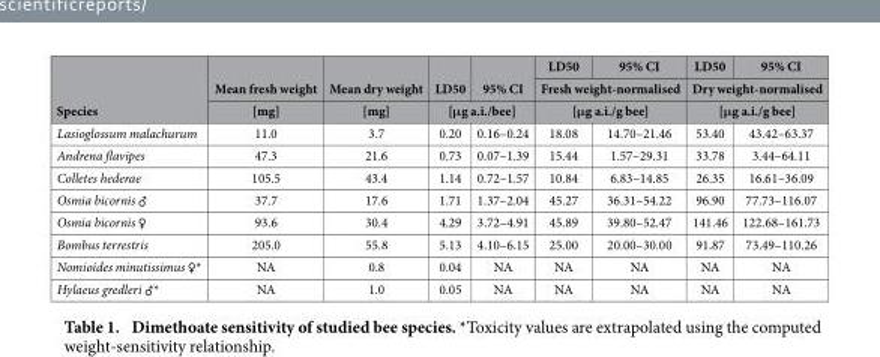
<table><thead><tr><td rowspan="3">Species</td><td rowspan="3">Mean fresh weight [mg]</td><td rowspan="3">Mean dry weight [mg]</td><td rowspan="2">LD50</td><td rowspan="2">95% CI</td><td>LD50</td><td>95% CI</td><td>LD50</td><td>95% CI</td></tr><tr><td rowspan="2" colspan="2">Fresh weight-normalised [μg a.i./g bee]</td><td rowspan="2" colspan="2">Dry weight-normalised [μg a.i./g bee]</td></tr><tr><td colspan="2">[μg a.i./bee]</td></tr></thead><tbody><tr><td>Lasioglossum malachurum</td><td>11.0</td><td>3.7</td><td>0.20</td><td>0.16–0.24</td><td>18.08</td><td>14.70–21.46</td><td>53.40</td><td>43.42–63.37</td></tr><tr><td>Andrena flavipes</td><td>47.3</td><td>21.6</td><td>0.73</td><td>0.07–1.39</td><td>15.44</td><td>1.57–29.31</td><td>33.78</td><td>3.44–64.11</td></tr><tr><td>Colletes hederae</td><td>105.5</td><td>43.4</td><td>1.14</td><td>0.72–1.57</td><td>10.84</td><td>6.83–14.85</td><td>26.35</td><td>16.61–36.09</td></tr><tr><td>Osmia bicornis ♂</td><td>37.7</td><td>17.6</td><td>1.71</td><td>1.37–2.04</td><td>45.27</td><td>36.31–54.22</td><td>96.90</td><td>77.73–116.07</td></tr><tr><td>Osmia bicornis ♀</td><td>93.6</td><td>30.4</td><td>4.29</td><td>3.72–4.91</td><td>45.89</td><td>39.80–52.47</td><td>141.46</td><td>122.68–161.73</td></tr><tr><td>Bombus terrestris</td><td>205.0</td><td>55.8</td><td>5.13</td><td>4.10–6.15</td><td>25.00</td><td>20.00–30.00</td><td>91.87</td><td>73.49–110.26</td></tr><tr><td>Nomioides minutissimus ♀ *</td><td>NA</td><td>0.8</td><td>0.04</td><td>NA</td><td>NA</td><td>NA</td><td>NA</td><td>NA</td></tr><tr><td>Hylaeus gredleri ♂ *</td><td>NA</td><td>1.0</td><td>0.05</td><td>NA</td><td>NA</td><td>NA</td><td>NA</td><td>NA</td></tr></tbody></table>